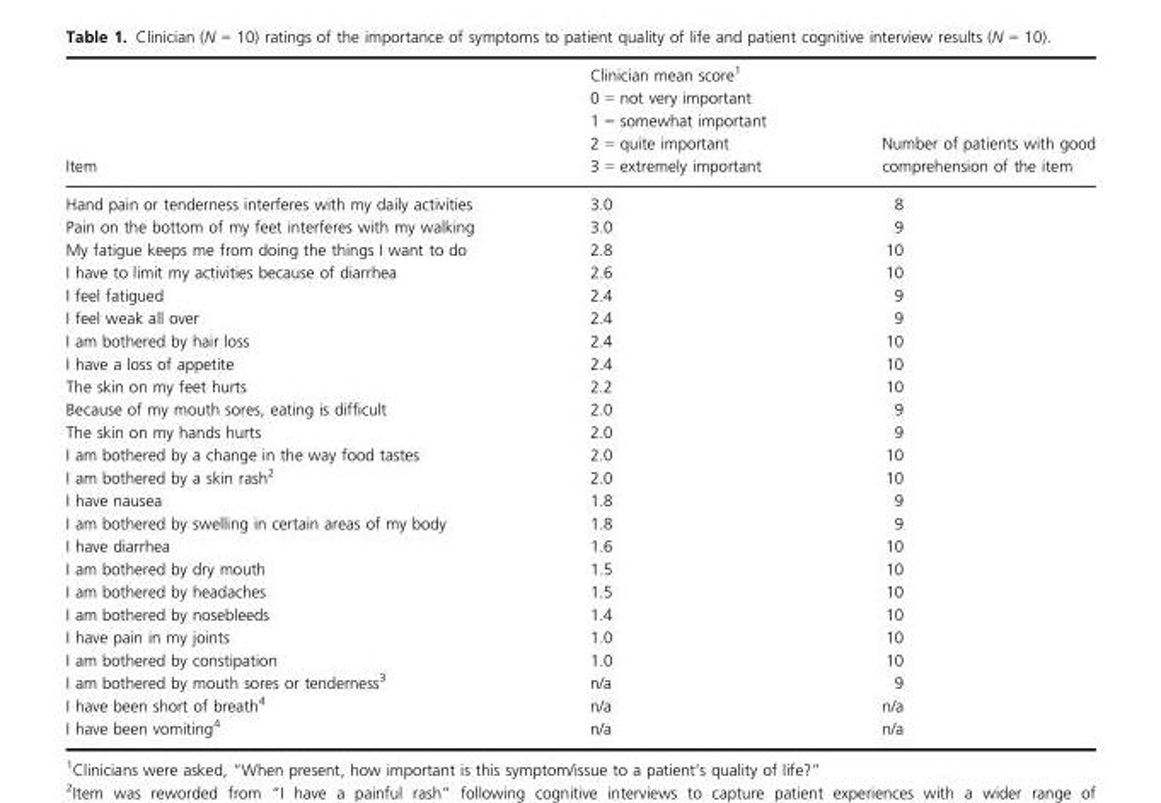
<table><thead><tr><td>Item</td><td>Clinician mean score<sup>1</sup> 0 = not very important 1 = somewhat important 2 = quite important 3 = extremely important</td><td>Number of patients with good comprehension of the item</td></tr></thead><tbody><tr><td>Hand pain or tenderness interferes with my daily activities</td><td>3.0</td><td>8</td></tr><tr><td>Pain on the bottom of my feet interferes with my walking</td><td>3.0</td><td>9</td></tr><tr><td>My fatigue keeps me from doing the things I want to do</td><td>2.8</td><td>10</td></tr><tr><td>I have to limit my activities because of diarrhea</td><td>2.6</td><td>10</td></tr><tr><td>I feel fatigued</td><td>2.4</td><td>9</td></tr><tr><td>I feel weak all over</td><td>2.4</td><td>9</td></tr><tr><td>I am bothered by hair loss</td><td>2.4</td><td>10</td></tr><tr><td>I have a loss of appetite</td><td>2.4</td><td>10</td></tr><tr><td>The skin on my feet hurts</td><td>2.2</td><td>10</td></tr><tr><td>Because of my mouth sores, eating is difficult</td><td>2.0</td><td>9</td></tr><tr><td>The skin on my hands hurts</td><td>2.0</td><td>9</td></tr><tr><td>I am bothered by a change in the way food tastes</td><td>2.0</td><td>10</td></tr><tr><td>I am bothered by a skin rash<sup>2</sup></td><td>2.0</td><td>10</td></tr><tr><td>I have nausea</td><td>1.8</td><td>9</td></tr><tr><td>I am bothered by swelling in certain areas of my body</td><td>1.8</td><td>9</td></tr><tr><td>I have diarrhea</td><td>1.6</td><td>10</td></tr><tr><td>I am bothered by dry mouth</td><td>1.5</td><td>10</td></tr><tr><td>I am bothered by headaches</td><td>1.5</td><td>10</td></tr><tr><td>I am bothered by nosebleeds</td><td>1.4</td><td>10</td></tr><tr><td>I have pain in my joints</td><td>1.0</td><td>10</td></tr><tr><td>I am bothered by constipation</td><td>1.0</td><td>10</td></tr><tr><td>I am bothered by mouth sores or tenderness<sup>3</sup></td><td>n/a</td><td>9</td></tr><tr><td>I have been short of breath<sup>4</sup></td><td>n/a</td><td>n/a</td></tr><tr><td>I have been vomiting<sup>4</sup></td><td>n/a</td><td>n/a</td></tr></tbody></table>